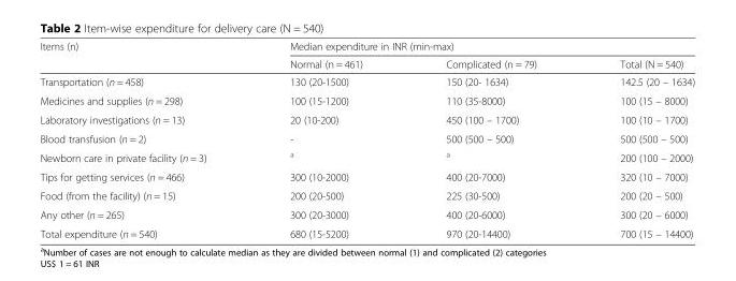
<table><thead><tr><td rowspan="2">Items (n)</td><td colspan="3">Median expenditure in INR (min-max)</td></tr><tr><td>Normal (n = 461)</td><td>Complicated (n = 79)</td><td>Total (N = 540)</td></tr></thead><tbody><tr><td>Transportation (n = 458)</td><td>130 (20-1500)</td><td>150 (20- 1634)</td><td>142.5 (20 – 1634)</td></tr><tr><td>Medicines and supplies (n = 298)</td><td>100 (15-1200)</td><td>110 (35-8000)</td><td>100 (15 – 8000)</td></tr><tr><td>Laboratory investigations (n = 13)</td><td>20 (10-200)</td><td>450 (100 – 1700)</td><td>100 (10 – 1700)</td></tr><tr><td>Blood transfusion (n = 2)</td><td>-</td><td>500 (500 – 500)</td><td>500 (500 – 500)</td></tr><tr><td>Newborn care in private facility (n = 3)</td><td><sup>a</sup></td><td><sup>a</sup></td><td>200 (100 – 2000)</td></tr><tr><td>Tips for getting services (n = 466)</td><td>300 (10-2000)</td><td>400 (20-7000)</td><td>320 (10 – 7000)</td></tr><tr><td>Food (from the facility) (n = 15)</td><td>200 (20-500)</td><td>225 (30-500)</td><td>200 (20 – 500)</td></tr><tr><td>Any other (n = 265)</td><td>300 (20-3000)</td><td>400 (20-6000)</td><td>300 (20 – 6000)</td></tr><tr><td>Total expenditure (n = 540)</td><td>680 (15-5200)</td><td>970 (20-14400)</td><td>700 (15 – 14400)</td></tr></tbody></table>